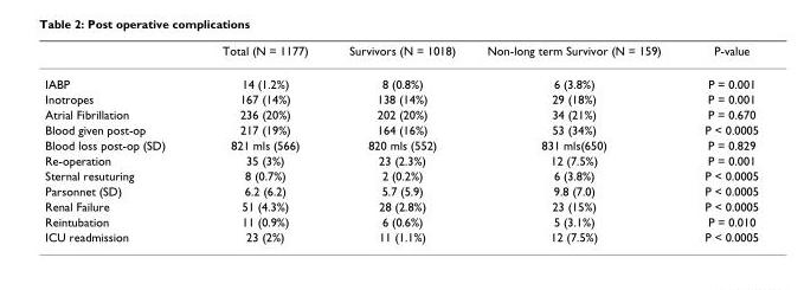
<table><thead><tr><td></td><td>Total (N = 1177)</td><td>Survivors (N = 1018)</td><td>Non-long term Survivor (N = 159)</td><td>P-value</td></tr></thead><tbody><tr><td>IABP</td><td>14 (1.2%)</td><td>8 (0.8%)</td><td>6 (3.8%)</td><td>P = 0.001</td></tr><tr><td>Inotropes</td><td>167 (14%)</td><td>138 (14%)</td><td>29 (18%)</td><td>P = 0.001</td></tr><tr><td>Atrial Fibrillation</td><td>236 (20%)</td><td>202 (20%)</td><td>34 (21%)</td><td>P = 0.670</td></tr><tr><td>Blood given post-op</td><td>217 (19%)</td><td>164 (16%)</td><td>53 (34%)</td><td>P &lt; 0.0005</td></tr><tr><td>Blood loss post-op (SD)</td><td>821 mls (566)</td><td>820 mls (552)</td><td>831 mls(650)</td><td>P = 0.829</td></tr><tr><td>Re-operation</td><td>35 (3%)</td><td>23 (2.3%)</td><td>12 (7.5%)</td><td>P = 0.001</td></tr><tr><td>Sternal resuturing</td><td>8 (0.7%)</td><td>2 (0.2%)</td><td>6 (3.8%)</td><td>P &lt; 0.0005</td></tr><tr><td>Parsonnet (SD)</td><td>6.2 (6.2)</td><td>5.7 (5.9)</td><td>9.8 (7.0)</td><td>P &lt; 0.0005</td></tr><tr><td>Renal Failure</td><td>51 (4.3%)</td><td>28 (2.8%)</td><td>23 (15%)</td><td>P &lt; 0.0005</td></tr><tr><td>Reintubation</td><td>11 (0.9%)</td><td>6 (0.6%)</td><td>5 (3.1%)</td><td>P = 0.010</td></tr><tr><td>ICU readmission</td><td>23 (2%)</td><td>11 (1.1%)</td><td>12 (7.5%)</td><td>P &lt; 0.0005</td></tr></tbody></table>